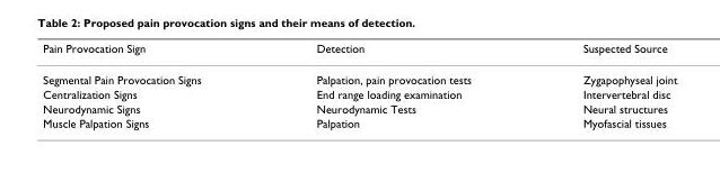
<table><thead><tr><td>Pain Provocation Sign</td><td>Detection</td><td>Suspected Source</td></tr></thead><tbody><tr><td>Segmental Pain Provocation Signs</td><td>Palpation, pain provocation tests</td><td>Zygapophyseal joint</td></tr><tr><td>Centralization Signs</td><td>End range loading examination</td><td>Intervertebral disc</td></tr><tr><td>Neurodynamic Signs</td><td>Neurodynamic Tests</td><td>Neural structures</td></tr><tr><td>Muscle Palpation Signs</td><td>Palpation</td><td>Myofascial tissues</td></tr></tbody></table>